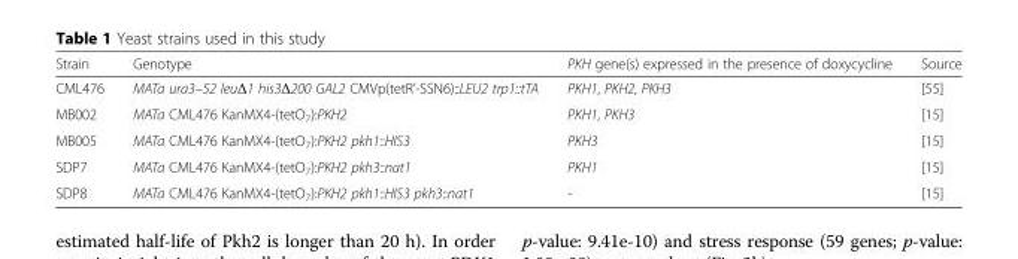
<table><thead><tr><td>Strain</td><td>Genotype</td><td>PKH gene(s) expressed in the presence of doxycycline</td><td>Source</td></tr></thead><tbody><tr><td>CML476</td><td>MATa ura3–52 leuΔ1 his3Δ200 GAL2 CMVp(tetR’-SSN6)::LEU2 trp1::tTA</td><td>PKH1, PKH2, PKH3</td><td>[55]</td></tr><tr><td>MB002</td><td>MATa CML476 KanMX4-(tetO<sub>7</sub>):PKH2</td><td>PKH1, PKH3</td><td>[15]</td></tr><tr><td>MB005</td><td>MATa CML476 KanMX4-(tetO<sub>7</sub>):PKH2 pkh1::HIS3</td><td>PKH3</td><td>[15]</td></tr><tr><td>SDP7</td><td>MATa CML476 KanMX4-(tetO<sub>7</sub>):PKH2 pkh3::nat1</td><td>PKH1</td><td>[15]</td></tr><tr><td>SDP8</td><td>MATa CML476 KanMX4-(tetO<sub>7</sub>):PKH2 pkh1::HIS3 pkh3::nat1</td><td>-</td><td>[15]</td></tr></tbody></table>